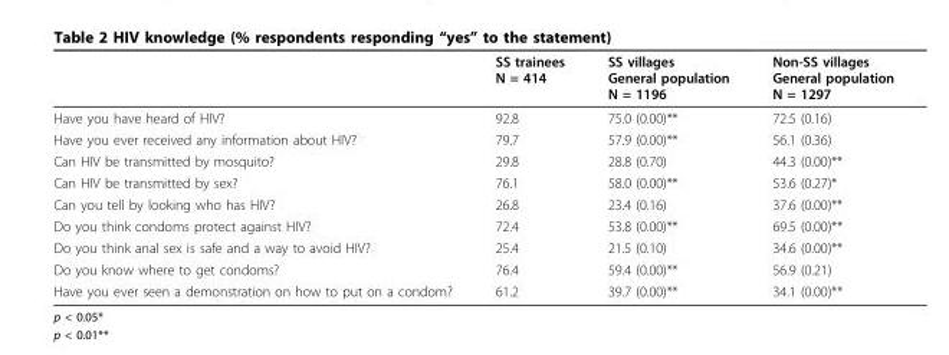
<table><thead><tr><td></td><td>SS trainees N = 414</td><td>SS villages General population N = 1196</td><td>Non-SS villages General population N = 1297</td></tr></thead><tbody><tr><td>Have you have heard of HIV?</td><td>92.8</td><td>75.0 (0.00)**</td><td>72.5 (0.16)</td></tr><tr><td>Have you ever received any information about HIV?</td><td>79.7</td><td>57.9 (0.00)**</td><td>56.1 (0.36)</td></tr><tr><td>Can HIV be transmitted by mosquito?</td><td>29.8</td><td>28.8 (0.70)</td><td>44.3 (0.00)**</td></tr><tr><td>Can HIV be transmitted by sex?</td><td>76.1</td><td>58.0 (0.00)**</td><td>53.6 (0.27)*</td></tr><tr><td>Can you tell by looking who has HIV?</td><td>26.8</td><td>23.4 (0.16)</td><td>37.6 (0.00)**</td></tr><tr><td>Do you think condoms protect against HIV?</td><td>72.4</td><td>53.8 (0.00)**</td><td>69.5 (0.00)**</td></tr><tr><td>Do you think anal sex is safe and a way to avoid HIV?</td><td>25.4</td><td>21.5 (0.10)</td><td>34.6 (0.00)**</td></tr><tr><td>Do you know where to get condoms?</td><td>76.4</td><td>59.4 (0.00)**</td><td>56.9 (0.21)</td></tr><tr><td>Have you ever seen a demonstration on how to put on a condom?</td><td>61.2</td><td>39.7 (0.00)**</td><td>34.1 (0.00)**</td></tr></tbody></table>